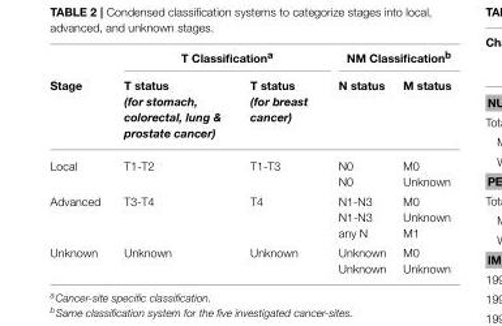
<table><thead><tr><td rowspan="2">Stage</td><td colspan="2">T Classification<sup>a</sup></td><td colspan="2">NM Classification<sup>b</sup></td></tr><tr><td>T status (for stomach, colorectal, lung &amp; prostate cancer)</td><td>T status (for breast cancer)</td><td>N status</td><td>M status</td></tr></thead><tbody><tr><td>Local</td><td>T1-T2</td><td>T1-T3</td><td>N0 N0</td><td>M0 Unknown</td></tr><tr><td>Advanced</td><td>T3-T4</td><td>T4</td><td>N1-N3 N1-N3 any N</td><td>M0 Unknown M1</td></tr><tr><td>Unknown</td><td>Unknown</td><td>Unknown</td><td>Unknown Unknown</td><td>M0 Unknown</td></tr></tbody></table>